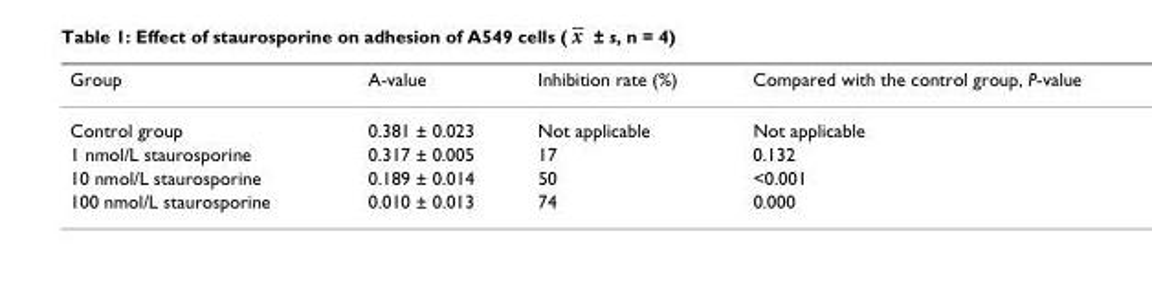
<table><thead><tr><td>Group</td><td>A-value</td><td>Inhibition rate (%)</td><td>Compared with the control group, P-value</td></tr></thead><tbody><tr><td>Control group</td><td>0.381 ± 0.023</td><td>Not applicable</td><td>Not applicable</td></tr><tr><td>1 nmol/L staurosporine</td><td>0.317 ± 0.005</td><td>17</td><td>0.132</td></tr><tr><td>10 nmol/L staurosporine</td><td>0.189 ± 0.014</td><td>50</td><td>&lt;0.001</td></tr><tr><td>100 nmol/L staurosporine</td><td>0.010 ± 0.013</td><td>74</td><td>0.000</td></tr></tbody></table>